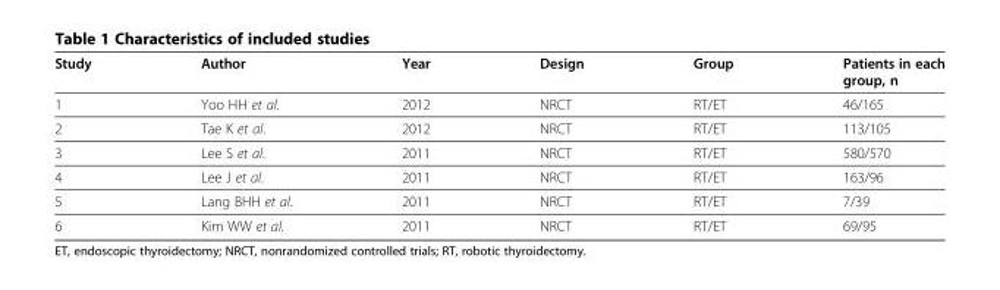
<table><thead><tr><td>Study</td><td>Author</td><td>Year</td><td>Design</td><td>Group</td><td>Patients in each group, n</td></tr></thead><tbody><tr><td>1</td><td>Yoo HH et al.</td><td>2012</td><td>NRCT</td><td>RT/ET</td><td>46/165</td></tr><tr><td>2</td><td>Tae K et al.</td><td>2012</td><td>NRCT</td><td>RT/ET</td><td>113/105</td></tr><tr><td>3</td><td>Lee S et al.</td><td>2011</td><td>NRCT</td><td>RT/ET</td><td>580/570</td></tr><tr><td>4</td><td>Lee J et al.</td><td>2011</td><td>NRCT</td><td>RT/ET</td><td>163/96</td></tr><tr><td>5</td><td>Lang BHH et al.</td><td>2011</td><td>NRCT</td><td>RT/ET</td><td>7/39</td></tr><tr><td>6</td><td>Kim WW et al.</td><td>2011</td><td>NRCT</td><td>RT/ET</td><td>69/95</td></tr></tbody></table>